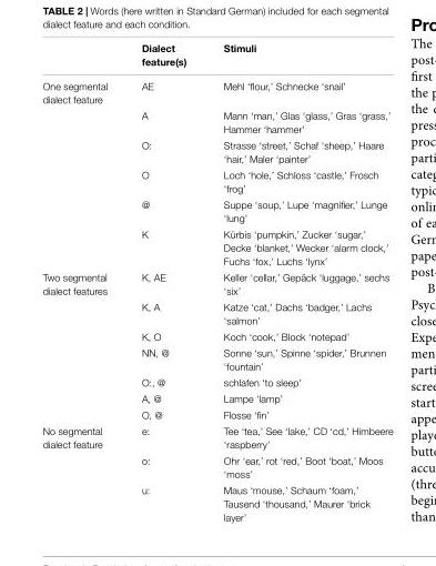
<table><thead><tr><td></td><td>Dialect feature(s)</td><td>Stimuli</td></tr></thead><tbody><tr><td rowspan="6">One segmental dialect feature</td><td>AE</td><td>Mehl ‘flour,’ Schnecke ‘snail’</td></tr><tr><td>A</td><td>Mann ‘man,’ Glas ‘glass,’ Gras ‘grass,’ Hammer ‘hammer’</td></tr><tr><td>O:</td><td>Strasse ‘street,’ Schaf ‘sheep,’ Haare ‘hair,’ Maler ‘painter’</td></tr><tr><td>O</td><td>Loch ‘hole,’ Schloss ‘castle,’ Frosch ‘frog’</td></tr><tr><td>@</td><td>Suppe ‘soup,’ Lupe ‘magnifier,’ Lunge ‘lung’</td></tr><tr><td>K</td><td>Kürbis ‘pumpkin,’ Zucker ‘sugar,’ Decke ‘blanket,’ Wecker ‘alarm clock,’ Fuchs ‘fox,’ Luchs ‘lynx’</td></tr><tr><td rowspan="7">Two segmental dialect features</td><td>K, AE</td><td>Keller ‘cellar,’ Gepäck ‘luggage,’ sechs ‘six’</td></tr><tr><td>K, A</td><td>Katze ‘cat,’ Dachs ‘badger,’ Lachs ‘salmon’</td></tr><tr><td>K, O</td><td>Koch ‘cook,’ Block ‘notepad’</td></tr><tr><td>NN, @</td><td>Sonne ‘sun,’ Spinne ‘spider,’ Brunnen ‘fountain’</td></tr><tr><td>O:, @</td><td>schlafen ‘to sleep’</td></tr><tr><td>A, @</td><td>Lampe ‘lamp’</td></tr><tr><td>O, @</td><td>Flosse ‘fin’</td></tr><tr><td rowspan="3">No segmental dialect feature</td><td>e:</td><td>Tee ‘tea,’ See ‘lake,’ CD ‘cd,’ Himbeere ‘raspberry’</td></tr><tr><td>o:</td><td>Ohr ‘ear,’ rot ‘red,’ Boot ‘boat,’ Moos ‘moss’</td></tr><tr><td>u:</td><td>Maus ‘mouse,’ Schaum ‘foam,’ Tausend ‘thousand,’ Maurer ‘brick layer’</td></tr></tbody></table>